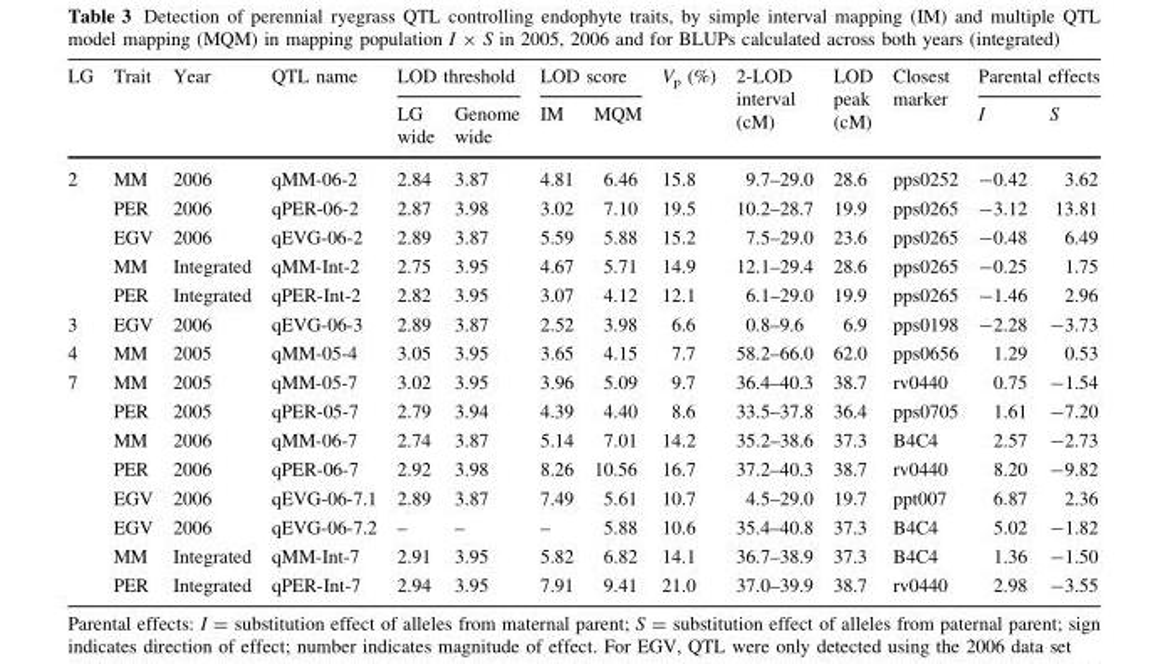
<table><thead><tr><td rowspan="2">LG</td><td rowspan="2">Trait</td><td rowspan="2">Year</td><td rowspan="2">QTL name</td><td colspan="2">LOD threshold</td><td colspan="2">LOD score</td><td rowspan="2">V<sub>p</sub> (%)</td><td rowspan="2">2-LOD interval (cM)</td><td rowspan="2">LOD peak (cM)</td><td rowspan="2">Closest marker</td><td colspan="2">Parental effects</td></tr><tr><td>LG wide</td><td>Genome wide</td><td>IM</td><td>MQM</td><td>I</td><td>S</td></tr></thead><tbody><tr><td rowspan="5">2</td><td>MM</td><td>2006</td><td>qMM-06-2</td><td>2.84</td><td>3.87</td><td>4.81</td><td>6.46</td><td>15.8</td><td>9.7–29.0</td><td>28.6</td><td>pps0252</td><td>-0.42</td><td>3.62</td></tr><tr><td>PER</td><td>2006</td><td>qPER-06-2</td><td>2.87</td><td>3.98</td><td>3.02</td><td>7.10</td><td>19.5</td><td>10.2–28.7</td><td>19.9</td><td>pps0265</td><td>-3.12</td><td>13.81</td></tr><tr><td>EGV</td><td>2006</td><td>qEVG-06-2</td><td>2.89</td><td>3.87</td><td>5.59</td><td>5.88</td><td>15.2</td><td>7.5–29.0</td><td>23.6</td><td>pps0265</td><td>-0.48</td><td>6.49</td></tr><tr><td>MM</td><td>Integrated</td><td>qMM-Int-2</td><td>2.75</td><td>3.95</td><td>4.67</td><td>5.71</td><td>14.9</td><td>12.1–29.4</td><td>28.6</td><td>pps0265</td><td>-0.25</td><td>1.75</td></tr><tr><td>PER</td><td>Integrated</td><td>qPER-Int-2</td><td>2.82</td><td>3.95</td><td>3.07</td><td>4.12</td><td>12.1</td><td>6.1–29.0</td><td>19.9</td><td>pps0265</td><td>-1.46</td><td>2.96</td></tr><tr><td>3</td><td>EGV</td><td>2006</td><td>qEVG-06-3</td><td>2.89</td><td>3.87</td><td>2.52</td><td>3.98</td><td>6.6</td><td>0.8–9.6</td><td>6.9</td><td>pps0198</td><td>-2.28</td><td>-3.73</td></tr><tr><td>4</td><td>MM</td><td>2005</td><td>qMM-05-4</td><td>3.05</td><td>3.95</td><td>3.65</td><td>4.15</td><td>7.7</td><td>58.2–66.0</td><td>62.0</td><td>pps0656</td><td>1.29</td><td>0.53</td></tr><tr><td rowspan="8">7</td><td>MM</td><td>2005</td><td>qMM-05-7</td><td>3.02</td><td>3.95</td><td>3.96</td><td>5.09</td><td>9.7</td><td>36.4–40.3</td><td>38.7</td><td>rv0440</td><td>0.75</td><td>-1.54</td></tr><tr><td>PER</td><td>2005</td><td>qPER-05-7</td><td>2.79</td><td>3.94</td><td>4.39</td><td>4.40</td><td>8.6</td><td>33.5–37.8</td><td>36.4</td><td>pps0705</td><td>1.61</td><td>-7.20</td></tr><tr><td>MM</td><td>2006</td><td>qMM-06-7</td><td>2.74</td><td>3.87</td><td>5.14</td><td>7.01</td><td>14.2</td><td>35.2–38.6</td><td>37.3</td><td>B4C4</td><td>2.57</td><td>-2.73</td></tr><tr><td>PER</td><td>2006</td><td>qPER-06-7</td><td>2.92</td><td>3.98</td><td>8.26</td><td>10.56</td><td>16.7</td><td>37.2–40.3</td><td>38.7</td><td>rv0440</td><td>8.20</td><td>-9.82</td></tr><tr><td>EGV</td><td>2006</td><td>qEVG-06-7.1</td><td>2.89</td><td>3.87</td><td>7.49</td><td>5.61</td><td>10.7</td><td>4.5–29.0</td><td>19.7</td><td>ppt007</td><td>6.87</td><td>2.36</td></tr><tr><td>EGV</td><td>2006</td><td>qEVG-06-7.2</td><td>–</td><td>–</td><td>–</td><td>5.88</td><td>10.6</td><td>35.4–40.8</td><td>37.3</td><td>B4C4</td><td>5.02</td><td>-1.82</td></tr><tr><td>MM</td><td>Integrated</td><td>qMM-Int-7</td><td>2.91</td><td>3.95</td><td>5.82</td><td>6.82</td><td>14.1</td><td>36.7–38.9</td><td>37.3</td><td>B4C4</td><td>1.36</td><td>-1.50</td></tr><tr><td>PER</td><td>Integrated</td><td>qPER-Int-7</td><td>2.94</td><td>3.95</td><td>7.91</td><td>9.41</td><td>21.0</td><td>37.0–39.9</td><td>38.7</td><td>rv0440</td><td>2.98</td><td>-3.55</td></tr></tbody></table>